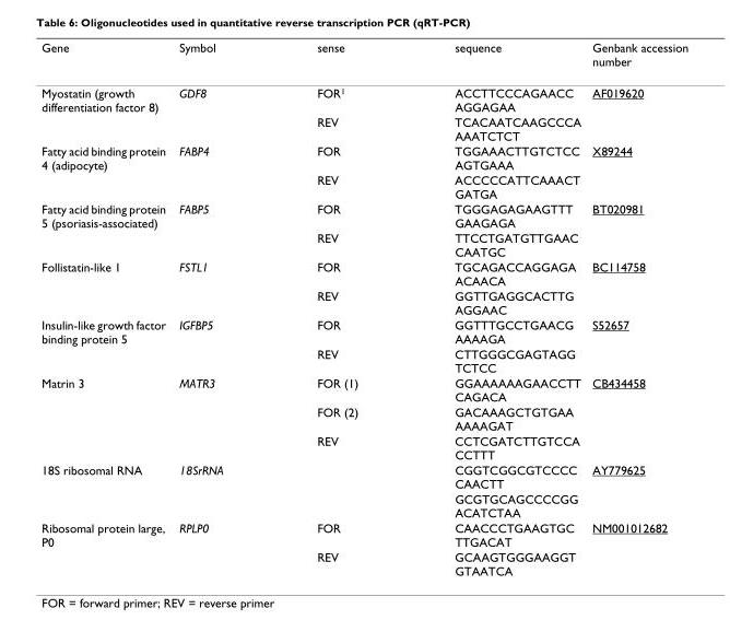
<table><thead><tr><td>Gene</td><td>Symbol</td><td>sense</td><td>sequence</td><td>Genbank accession number</td></tr></thead><tbody><tr><td rowspan="2">Myostatin (growth differentiation factor 8)</td><td>GDF8</td><td>FOR<sup>1</sup></td><td>ACCTTCCCAGAACC AGGAGAA</td><td>AF019620</td></tr><tr><td></td><td>REV</td><td>TCACAATCAAGCCCA AAATCTCT</td><td></td></tr><tr><td rowspan="2">Fatty acid binding protein 4 (adipocyte)</td><td>FABP4</td><td>FOR</td><td>TGGAAACTTGTCTCC AGTGAAA</td><td>X89244</td></tr><tr><td></td><td>REV</td><td>ACCCCCATTCAAACT GATGA</td><td></td></tr><tr><td rowspan="2">Fatty acid binding protein 5 (psoriasis-associated)</td><td>FABP5</td><td>FOR</td><td>TGGGAGAGAAGTTT GAAGAGA</td><td>BT020981</td></tr><tr><td></td><td>REV</td><td>TTCCTGATGTTGAAC CAATGC</td><td></td></tr><tr><td rowspan="2">Follistatin-like 1</td><td>FSTL1</td><td>FOR</td><td>TGCAGACCAGGAGA ACAACA</td><td>BC114758</td></tr><tr><td></td><td>REV</td><td>GGTTGAGGCACTTG AGGAAC</td><td></td></tr><tr><td rowspan="2">Insulin-like growth factor binding protein 5</td><td>IGFBP5</td><td>FOR</td><td>GGTTTGCCTGAACG AAAAGA</td><td>S52657</td></tr><tr><td></td><td>REV</td><td>CTTGGGCGAGTAGG TCTCC</td><td></td></tr><tr><td rowspan="3">Matrin 3</td><td>MATR3</td><td>FOR (1)</td><td>GGAAAAAAGAACCTT CAGACA</td><td>CB434458</td></tr><tr><td></td><td>FOR (2)</td><td>GACAAAGCTGTGAA AAAAGAT</td><td></td></tr><tr><td></td><td>REV</td><td>CCTCGATCTTGTCCA CCTTT</td><td></td></tr><tr><td rowspan="2">18S ribosomal RNA</td><td>18SrRNA</td><td></td><td>CGGTCGGCGTCCCC CAACTT</td><td>AY779625</td></tr><tr><td></td><td></td><td>GCGTGCAGCCCCGG ACATCTAA</td><td></td></tr><tr><td rowspan="2">Ribosomal protein large, P0</td><td>RPLP0</td><td>FOR</td><td>CAACCCTGAAGTGC TTGACAT</td><td>NM001012682</td></tr><tr><td></td><td>REV</td><td>GCAAGTGGGAAGGT GTAATCA</td><td></td></tr></tbody></table>